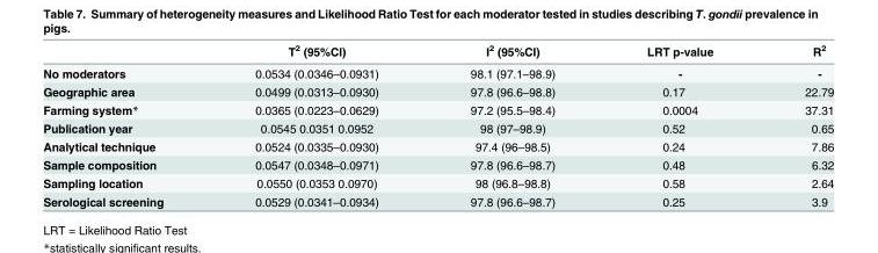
<table><thead><tr><td></td><td>T<sup>2</sup> (95%CI)</td><td>I<sup>2</sup> (95%CI)</td><td>LRT p-value</td><td>R<sup>2</sup></td></tr></thead><tbody><tr><td>No moderators</td><td>0.0534 (0.0346–0.0931)</td><td>98.1 (97.1–98.9)</td><td>-</td><td>-</td></tr><tr><td>Geographic area</td><td>0.0499 (0.0313–0.0930)</td><td>97.8 (96.6–98.8)</td><td>0.17</td><td>22.79</td></tr><tr><td>Farming system*</td><td>0.0365 (0.0223–0.0629)</td><td>97.2 (95.5–98.4)</td><td>0.0004</td><td>37.31</td></tr><tr><td>Publication year</td><td>0.0545 0.0351 0.0952</td><td>98 (97–98.9)</td><td>0.52</td><td>0.65</td></tr><tr><td>Analytical technique</td><td>0.0524 (0.0335–0.0930)</td><td>97.4 (96–98.5)</td><td>0.24</td><td>7.86</td></tr><tr><td>Sample composition</td><td>0.0547 (0.0348–0.0971)</td><td>97.8 (96.6–98.7)</td><td>0.48</td><td>6.32</td></tr><tr><td>Sampling location</td><td>0.0550 (0.0353 0.0970)</td><td>98 (96.8–98.8)</td><td>0.58</td><td>2.64</td></tr><tr><td>Serological screening</td><td>0.0529 (0.0341–0.0934)</td><td>97.8 (96.6–98.7)</td><td>0.25</td><td>3.9</td></tr></tbody></table>